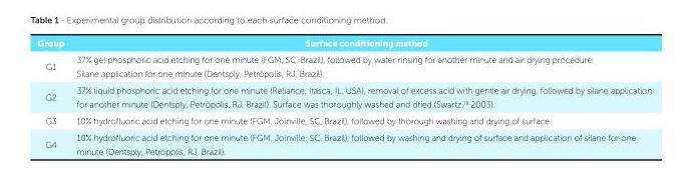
<table><thead><tr><td>Group</td><td>Surface conditioning method</td></tr></thead><tbody><tr><td>G1</td><td>37% gel phosphoric acid etching for one minute (FGM, SC, Brazil), followed by water rinsing for another minute and air drying procedure. Silane application for one minute (Dentsply, Petrópolis, RJ, Brazil).</td></tr><tr><td>G2</td><td>37% liquid phosphoric acid etching for one minute (Reliance, Itasca, IL, USA), removal of excess acid with gentle air drying, followed by silane application for another minute (Dentsply, Petrópolis, RJ, Brazil). Surface was thoroughly washed and dried (Swartz,<sup>18</sup> 2003).</td></tr><tr><td>G3</td><td>10% hydrofluoric acid etching for one minute (FGM, Joinville, SC, Brazil), followed by thorough washing and drying of surface.</td></tr><tr><td>G4</td><td>10% hydrofluoric acid etching for one minute (FGM, Joinville, SC, Brazil), followed by washing and drying of surface and application of silane for one minute (Dentsply, Petrópolis, RJ, Brazil).</td></tr></tbody></table>